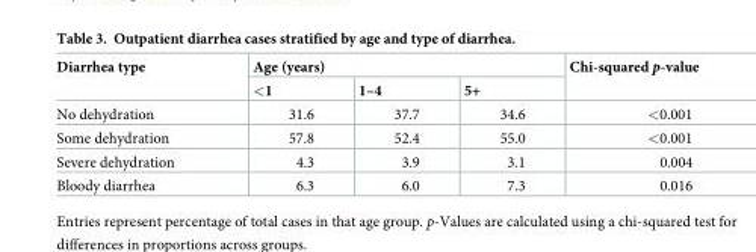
<table><thead><tr><td rowspan="2">Diarrhea type</td><td colspan="3">Age (years)</td><td rowspan="2">Chi-squared p-value</td></tr><tr><td>&lt;1</td><td>1–4</td><td>5+</td></tr></thead><tbody><tr><td>No dehydration</td><td>31.6</td><td>37.7</td><td>34.6</td><td>&lt;0.001</td></tr><tr><td>Some dehydration</td><td>57.8</td><td>52.4</td><td>55.0</td><td>&lt;0.001</td></tr><tr><td>Severe dehydration</td><td>4.3</td><td>3.9</td><td>3.1</td><td>0.004</td></tr><tr><td>Bloody diarrhea</td><td>6.3</td><td>6.0</td><td>7.3</td><td>0.016</td></tr></tbody></table>